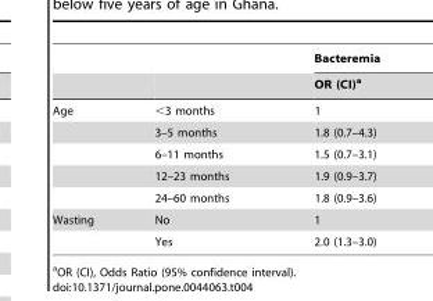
<table><thead><tr><td rowspan="2"></td><td rowspan="2"></td><td rowspan="2">Bacteremia OR (CI)<sup>a</sup></td></tr><tr></tr></thead><tbody><tr><td rowspan="5">Age</td><td>&lt;3 months</td><td>1</td></tr><tr><td>3–5 months</td><td>1.8 (0.7–4.3)</td></tr><tr><td>6–11 months</td><td>1.5 (0.7–3.1)</td></tr><tr><td>12–23 months</td><td>1.9 (0.9–3.7)</td></tr><tr><td>24–60 months</td><td>1.8 (0.9–3.6)</td></tr><tr><td rowspan="2">Wasting</td><td>No</td><td>1</td></tr><tr><td>Yes</td><td>2.0 (1.3–3.0)</td></tr></tbody></table>